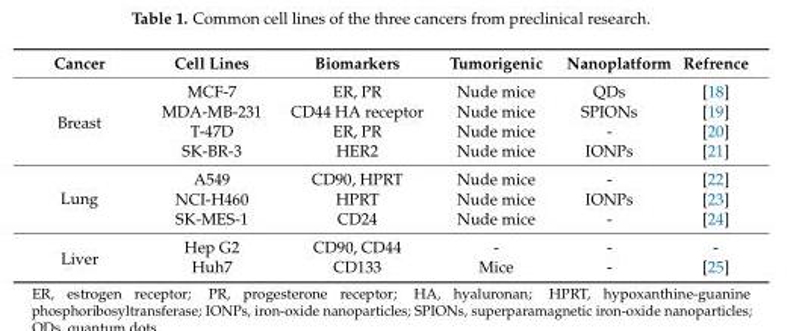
<table><thead><tr><td>Cancer</td><td>Cell Lines</td><td>Biomarkers</td><td>Tumorigenic</td><td>Nanoplatform</td><td>Refrence</td></tr></thead><tbody><tr><td rowspan="4">Breast</td><td>MCF-7</td><td>ER, PR</td><td>Nude mice</td><td>QDs</td><td>[18]</td></tr><tr><td>MDA-MB-231</td><td>CD44 HA receptor</td><td>Nude mice</td><td>SPIONs</td><td>[19]</td></tr><tr><td>T-47D</td><td>ER, PR</td><td>Nude mice</td><td>-</td><td>[20]</td></tr><tr><td>SK-BR-3</td><td>HER2</td><td>Nude mice</td><td>IONPs</td><td>[21]</td></tr><tr><td rowspan="3">Lung</td><td>A549</td><td>CD90, HPRT</td><td>Nude mice</td><td>-</td><td>[22]</td></tr><tr><td>NCI-H460</td><td>HPRT</td><td>Nude mice</td><td>IONPs</td><td>[23]</td></tr><tr><td>SK-MES-1</td><td>CD24</td><td>Nude mice</td><td>-</td><td>[24]</td></tr><tr><td rowspan="2">Liver</td><td>Hep G2</td><td>CD90, CD44</td><td>-</td><td>-</td><td>-</td></tr><tr><td>Huh7</td><td>CD133</td><td>Mice</td><td>-</td><td>[25]</td></tr></tbody></table>